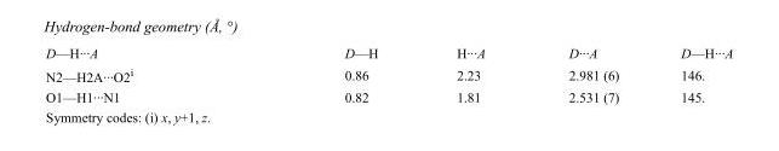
<table><tbody><tr><td>D—H···A</td><td>D—H</td><td>H···A</td><td>D···A</td><td>D—H···A</td></tr><tr><td>N2—H2A···O2<sup>i</sup></td><td>0.86</td><td>2.23</td><td>2.981 (6)</td><td>146.</td></tr><tr><td>O1—H1···N1</td><td>0.82</td><td>1.81</td><td>2.531 (7)</td><td>145.</td></tr></tbody></table>